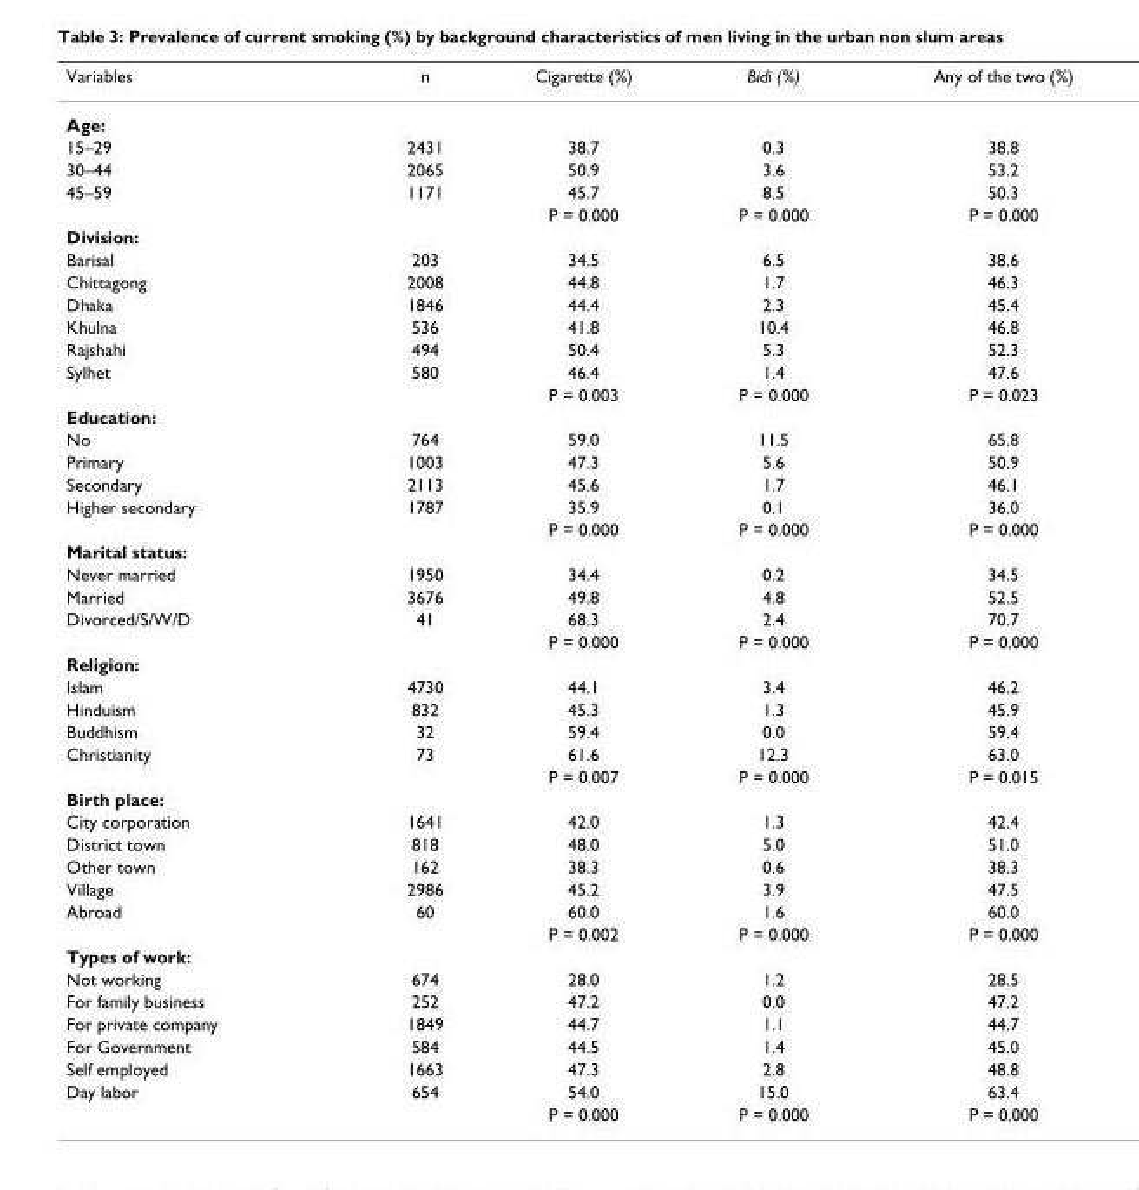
<table><thead><tr><td>Variables</td><td>n</td><td>Cigarette (%)</td><td>Bidi (%)</td><td>Any of the two (%)</td></tr></thead><tbody><tr><td colspan="5">Age:</td></tr><tr><td>15–29</td><td>2431</td><td>38.7</td><td>0.3</td><td>38.8</td></tr><tr><td>30–44</td><td>2065</td><td>50.9</td><td>3.6</td><td>53.2</td></tr><tr><td rowspan="2">45–59</td><td>1171</td><td>45.7</td><td>8.5</td><td>50.3</td></tr><tr><td></td><td>P = 0.000</td><td>P = 0.000</td><td>P = 0.000</td></tr><tr><td colspan="5">Division:</td></tr><tr><td>Barisal</td><td>203</td><td>34.5</td><td>6.5</td><td>38.6</td></tr><tr><td>Chittagong</td><td>2008</td><td>44.8</td><td>1.7</td><td>46.3</td></tr><tr><td>Dhaka</td><td>1846</td><td>44.4</td><td>2.3</td><td>45.4</td></tr><tr><td>Khulna</td><td>536</td><td>41.8</td><td>10.4</td><td>46.8</td></tr><tr><td>Rajshahi</td><td>494</td><td>50.4</td><td>5.3</td><td>52.3</td></tr><tr><td rowspan="2">Sylhet</td><td>580</td><td>46.4</td><td>1.4</td><td>47.6</td></tr><tr><td></td><td>P = 0.003</td><td>P = 0.000</td><td>P = 0.023</td></tr><tr><td colspan="5">Education:</td></tr><tr><td>No</td><td>764</td><td>59.0</td><td>11.5</td><td>65.8</td></tr><tr><td>Primary</td><td>1003</td><td>47.3</td><td>5.6</td><td>50.9</td></tr><tr><td>Secondary</td><td>2113</td><td>45.6</td><td>1.7</td><td>46.1</td></tr><tr><td rowspan="2">Higher secondary</td><td>1787</td><td>35.9</td><td>0.1</td><td>36.0</td></tr><tr><td></td><td>P = 0.000</td><td>P = 0.000</td><td>P = 0.000</td></tr><tr><td colspan="5">Marital status:</td></tr><tr><td>Never married</td><td>1950</td><td>34.4</td><td>0.2</td><td>34.5</td></tr><tr><td>Married</td><td>3676</td><td>49.8</td><td>4.8</td><td>52.5</td></tr><tr><td rowspan="2">Divorced/S/W/D</td><td>41</td><td>68.3</td><td>2.4</td><td>70.7</td></tr><tr><td></td><td>P = 0.000</td><td>P = 0.000</td><td>P = 0.000</td></tr><tr><td colspan="5">Religion:</td></tr><tr><td>Islam</td><td>4730</td><td>44.1</td><td>3.4</td><td>46.2</td></tr><tr><td>Hinduism</td><td>832</td><td>45.3</td><td>1.3</td><td>45.9</td></tr><tr><td>Buddhism</td><td>32</td><td>59.4</td><td>0.0</td><td>59.4</td></tr><tr><td rowspan="2">Christianity</td><td>73</td><td>61.6</td><td>12.3</td><td>63.0</td></tr><tr><td></td><td>P = 0.007</td><td>P = 0.000</td><td>P = 0.015</td></tr><tr><td colspan="5">Birth place:</td></tr><tr><td>City corporation</td><td>1641</td><td>42.0</td><td>1.3</td><td>42.4</td></tr><tr><td>District town</td><td>818</td><td>48.0</td><td>5.0</td><td>51.0</td></tr><tr><td>Other town</td><td>162</td><td>38.3</td><td>0.6</td><td>38.3</td></tr><tr><td>Village</td><td>2986</td><td>45.2</td><td>3.9</td><td>47.5</td></tr><tr><td rowspan="2">Abroad</td><td>60</td><td>60.0</td><td>1.6</td><td>60.0</td></tr><tr><td></td><td>P = 0.002</td><td>P = 0.000</td><td>P = 0.000</td></tr><tr><td colspan="5">Types of work:</td></tr><tr><td>Not working</td><td>674</td><td>28.0</td><td>1.2</td><td>28.5</td></tr><tr><td>For family business</td><td>252</td><td>47.2</td><td>0.0</td><td>47.2</td></tr><tr><td>For private company</td><td>1849</td><td>44.7</td><td>1.1</td><td>44.7</td></tr><tr><td>For Government</td><td>584</td><td>44.5</td><td>1.4</td><td>45.0</td></tr><tr><td>Self employed</td><td>1663</td><td>47.3</td><td>2.8</td><td>48.8</td></tr><tr><td rowspan="2">Day labor</td><td>654</td><td>54.0</td><td>15.0</td><td>63.4</td></tr><tr><td></td><td>P = 0.000</td><td>P = 0.000</td><td>P = 0.000</td></tr></tbody></table>